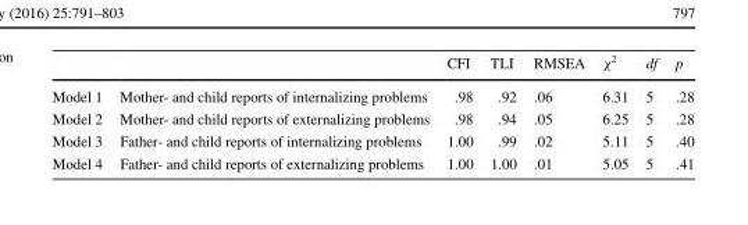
<table><thead><tr><td></td><td></td><td>CFI</td><td>TLI</td><td>RMSEA</td><td>χ<sup>2</sup></td><td>df</td><td>p</td></tr></thead><tbody><tr><td>Model 1</td><td>Mother- and child reports of internalizing problems</td><td>.98</td><td>.92</td><td>.06</td><td>6.31</td><td>5</td><td>.28</td></tr><tr><td>Model 2</td><td>Mother- and child reports of externalizing problems</td><td>.98</td><td>.94</td><td>.05</td><td>6.25</td><td>5</td><td>.28</td></tr><tr><td>Model 3</td><td>Father- and child reports of internalizing problems</td><td>1.00</td><td>.99</td><td>.02</td><td>5.11</td><td>5</td><td>.40</td></tr><tr><td>Model 4</td><td>Father- and child reports of externalizing problems</td><td>1.00</td><td>1.00</td><td>.01</td><td>5.05</td><td>5</td><td>.41</td></tr></tbody></table>